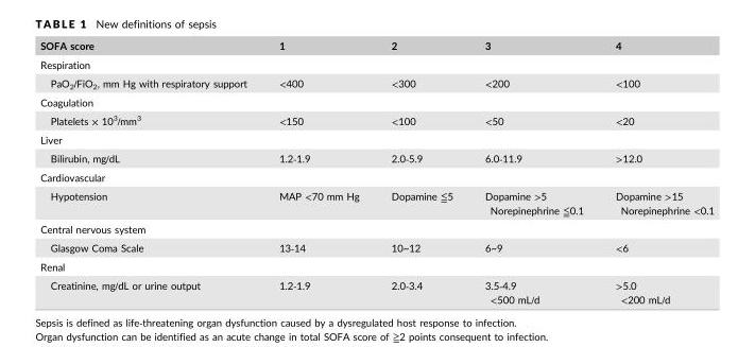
<table><thead><tr><td>SOFA score</td><td>1</td><td>2</td><td>3</td><td>4</td></tr></thead><tbody><tr><td colspan="5">Respiration</td></tr><tr><td>PaO<sub>2</sub>/FiO<sub>2</sub>, mm Hg with respiratory support</td><td>&lt;400</td><td>&lt;300</td><td>&lt;200</td><td>&lt;100</td></tr><tr><td colspan="5">Coagulation</td></tr><tr><td>Platelets × 10<sup>3</sup>/mm<sup>3</sup></td><td>&lt;150</td><td>&lt;100</td><td>&lt;50</td><td>&lt;20</td></tr><tr><td colspan="5">Liver</td></tr><tr><td>Bilirubin, mg/dL</td><td>1.2‐1.9</td><td>2.0‐5.9</td><td>6.0‐11.9</td><td>&gt;12.0</td></tr><tr><td colspan="5">Cardiovascular</td></tr><tr><td>Hypotension</td><td>MAP &lt;70 mm Hg</td><td>Dopamine ≦5</td><td>Dopamine &gt;5 Norepinephrine ≦0.1</td><td>Dopamine &gt;15 Norepinephrine &lt;0.1</td></tr><tr><td colspan="5">Central nervous system</td></tr><tr><td>Glasgow Coma Scale</td><td>13‐14</td><td>10~12</td><td>6~9</td><td>&lt;6</td></tr><tr><td colspan="5">Renal</td></tr><tr><td>Creatinine, mg/dL or urine output</td><td>1.2‐1.9</td><td>2.0‐3.4</td><td>3.5‐4.9 &lt;500 mL/d</td><td>&gt;5.0 &lt;200 mL/d</td></tr></tbody></table>